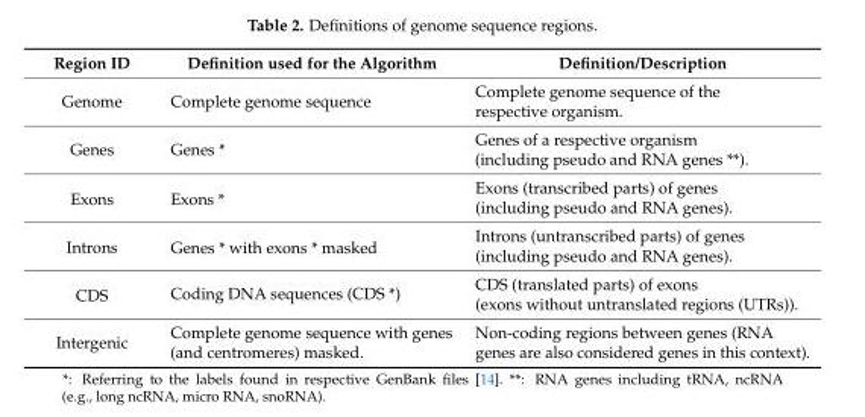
<table><thead><tr><td>Region ID</td><td>Definition used for the Algorithm</td><td>Definition/Description</td></tr></thead><tbody><tr><td>Genome</td><td>Complete genome sequence</td><td>Complete genome sequence of the respective organism.</td></tr><tr><td>Genes</td><td>Genes *</td><td>Genes of a respective organism (including pseudo and RNA genes **).</td></tr><tr><td rowspan="2">Exons</td><td rowspan="2">Exons *</td><td>Exons (transcribed parts) of genes</td></tr><tr><td>(including pseudo and RNA genes).</td></tr><tr><td rowspan="2">Introns</td><td rowspan="2">Genes * with exons * masked</td><td>Introns (untranscribed parts) of genes</td></tr><tr><td>(including pseudo and RNA genes).</td></tr><tr><td rowspan="2">CDS</td><td rowspan="2">Coding DNA sequences (CDS *)</td><td>CDS (translated parts) of exons</td></tr><tr><td>(exons without untranslated regions (UTRs)).</td></tr><tr><td>Intergenic</td><td>Complete genome sequence with genes (and centromeres) masked.</td><td>Non-coding regions between genes (RNA genes are also considered genes in this context).</td></tr></tbody></table>